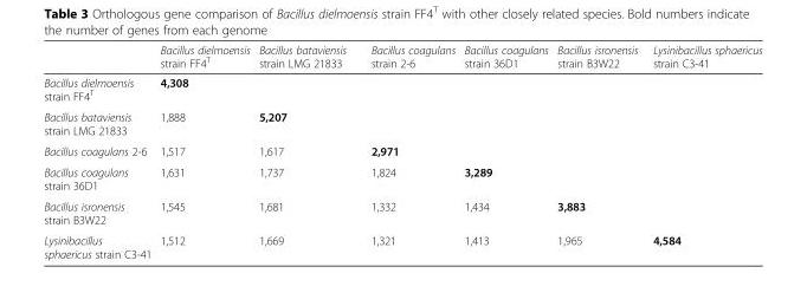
<table><thead><tr><td></td><td>Bacillus dielmoensis strain FF4<sup>T</sup></td><td>Bacillus bataviensis strain LMG 21833</td><td>Bacillus coagulans strain 2-6</td><td>Bacillus coagulans strain 36D1</td><td>Bacillus isronensis strain B3W22</td><td>Lysinibacillus sphaericus strain C3-41</td></tr></thead><tbody><tr><td>Bacillus dielmoensis strain FF4<sup>T</sup></td><td>4,308</td><td></td><td></td><td></td><td></td><td></td></tr><tr><td>Bacillus bataviensis strain LMG 21833</td><td>1,888</td><td>5,207</td><td></td><td></td><td></td><td></td></tr><tr><td>Bacillus coagulans 2-6</td><td>1,517</td><td>1,617</td><td>2,971</td><td></td><td></td><td></td></tr><tr><td>Bacillus coagulans strain 36D1</td><td>1,631</td><td>1,737</td><td>1,824</td><td>3,289</td><td></td><td></td></tr><tr><td>Bacillus isronensis strain B3W22</td><td>1,545</td><td>1,681</td><td>1,332</td><td>1,434</td><td>3,883</td><td></td></tr><tr><td>Lysinibacillus sphaericus strain C3-41</td><td>1,512</td><td>1,669</td><td>1,321</td><td>1,413</td><td>1,965</td><td>4,584</td></tr></tbody></table>